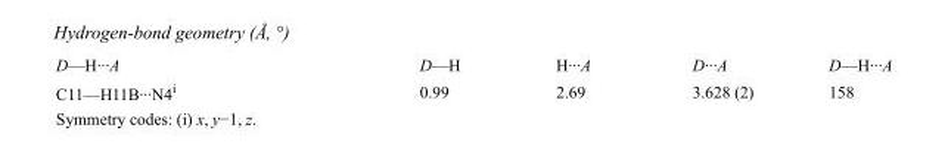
<table><tbody><tr><td>D—H···A</td><td>D—H</td><td>H···A</td><td>D···A</td><td>D—H···A</td></tr><tr><td>C11—H11B···N4<sup>i</sup></td><td>0.99</td><td>2.69</td><td>3.628 (2)</td><td>158</td></tr></tbody></table>